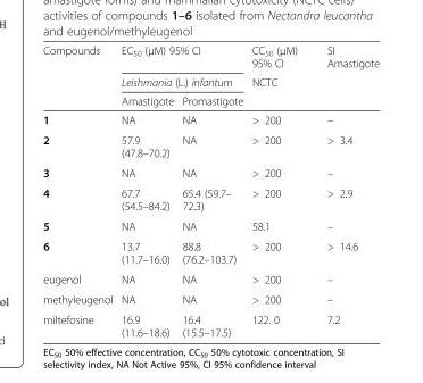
<table><thead><tr><td rowspan="3">Compounds</td><td rowspan="2" colspan="2">EC<sub>50</sub> (μM) 95% CI Leishmania (L.) infantum</td><td rowspan="3">CC<sub>50</sub> (μM) 95% CI NCTC</td><td rowspan="3">SI Amastigote</td></tr><tr></tr><tr><td>Amastigote</td><td>Promastigote</td></tr></thead><tbody><tr><td>1</td><td>NA</td><td>NA</td><td>&gt; 200</td><td>–</td></tr><tr><td>2</td><td>57.9 (47.8–70.2)</td><td>NA</td><td>&gt; 200</td><td>&gt; 3.4</td></tr><tr><td>3</td><td>NA</td><td>NA</td><td>&gt; 200</td><td>–</td></tr><tr><td>4</td><td>67.7 (54.5–84.2)</td><td>65.4 (59.7– 72.3)</td><td>&gt; 200</td><td>&gt; 2.9</td></tr><tr><td>5</td><td>NA</td><td>NA</td><td>58.1</td><td>–</td></tr><tr><td>6</td><td>13.7 (11.7–16.0)</td><td>88.8 (76.2–103.7)</td><td>&gt; 200</td><td>&gt; 14.6</td></tr><tr><td>eugenol</td><td>NA</td><td>NA</td><td>&gt; 200</td><td>–</td></tr><tr><td>methyleugenol</td><td>NA</td><td>NA</td><td>&gt; 200</td><td>–</td></tr><tr><td>miltefosine</td><td>16.9 (11.6–18.6)</td><td>16.4 (15.5–17.5)</td><td>122. 0</td><td>7.2</td></tr></tbody></table>